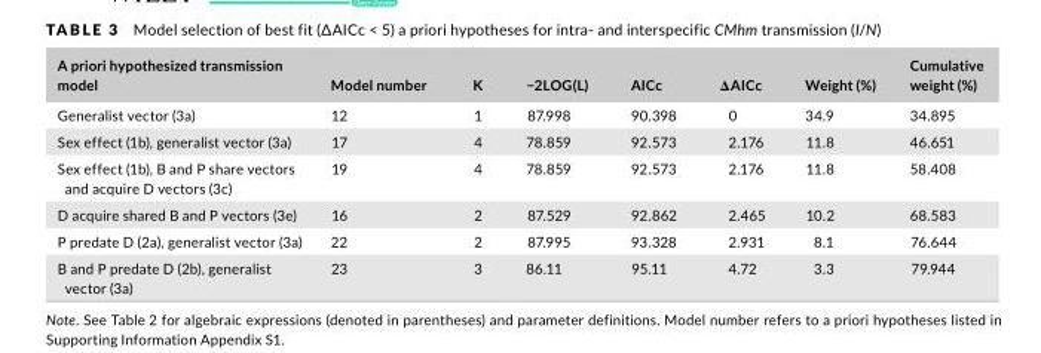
<table><thead><tr><td>A priori hypothesized transmission model</td><td>Model number</td><td>K</td><td>−2LOG(L)</td><td>AICc</td><td>ΔAICc</td><td>Weight (%)</td><td>Cumulative weight (%)</td></tr></thead><tbody><tr><td>Generalist vector (3a)</td><td>12</td><td>1</td><td>87.998</td><td>90.398</td><td>0</td><td>34.9</td><td>34.895</td></tr><tr><td>Sex effect (1b), generalist vector (3a)</td><td>17</td><td>4</td><td>78.859</td><td>92.573</td><td>2.176</td><td>11.8</td><td>46.651</td></tr><tr><td>Sex effect (1b), B and P share vectors and acquire D vectors (3c)</td><td>19</td><td>4</td><td>78.859</td><td>92.573</td><td>2.176</td><td>11.8</td><td>58.408</td></tr><tr><td>D acquire shared B and P vectors (3e)</td><td>16</td><td>2</td><td>87.529</td><td>92.862</td><td>2.465</td><td>10.2</td><td>68.583</td></tr><tr><td>P predate D (2a), generalist vector (3a)</td><td>22</td><td>2</td><td>87.995</td><td>93.328</td><td>2.931</td><td>8.1</td><td>76.644</td></tr><tr><td>B and P predate D (2b), generalist vector (3a)</td><td>23</td><td>3</td><td>86.11</td><td>95.11</td><td>4.72</td><td>3.3</td><td>79.944</td></tr></tbody></table>